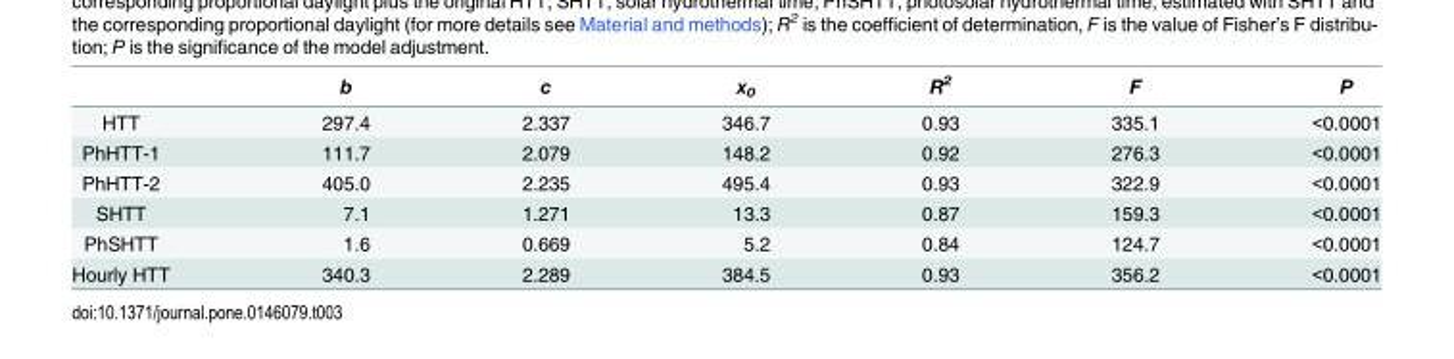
<table><thead><tr><td></td><td>b</td><td>c</td><td>x<sub>0</sub></td><td>R<sup>2</sup></td><td>F</td><td>P</td></tr></thead><tbody><tr><td>HTT</td><td>297.4</td><td>2.337</td><td>346.7</td><td>0.93</td><td>335.1</td><td>&lt;0.0001</td></tr><tr><td>PhHTT-1</td><td>111.7</td><td>2.079</td><td>148.2</td><td>0.92</td><td>276.3</td><td>&lt;0.0001</td></tr><tr><td>PhHTT-2</td><td>405.0</td><td>2.235</td><td>495.4</td><td>0.93</td><td>322.9</td><td>&lt;0.0001</td></tr><tr><td>SHTT</td><td>7.1</td><td>1.271</td><td>13.3</td><td>0.87</td><td>159.3</td><td>&lt;0.0001</td></tr><tr><td>PhSHTT</td><td>1.6</td><td>0.669</td><td>5.2</td><td>0.84</td><td>124.7</td><td>&lt;0.0001</td></tr><tr><td>Hourly HTT</td><td>340.3</td><td>2.289</td><td>384.5</td><td>0.93</td><td>356.2</td><td>&lt;0.0001</td></tr></tbody></table>